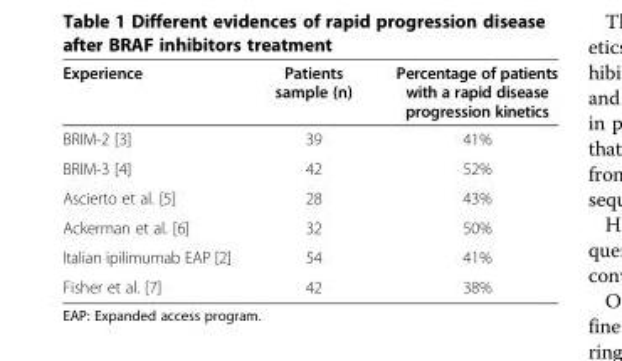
<table><thead><tr><td>Experience</td><td>Patients sample (n)</td><td>Percentage of patients with a rapid disease progression kinetics</td></tr></thead><tbody><tr><td>BRIM-2 [3]</td><td>39</td><td>41%</td></tr><tr><td>BRIM-3 [4]</td><td>42</td><td>52%</td></tr><tr><td>Ascierto et al. [5]</td><td>28</td><td>43%</td></tr><tr><td>Ackerman et al. [6]</td><td>32</td><td>50%</td></tr><tr><td>Italian ipilimumab EAP [2]</td><td>54</td><td>41%</td></tr><tr><td>Fisher et al. [7]</td><td>42</td><td>38%</td></tr></tbody></table>